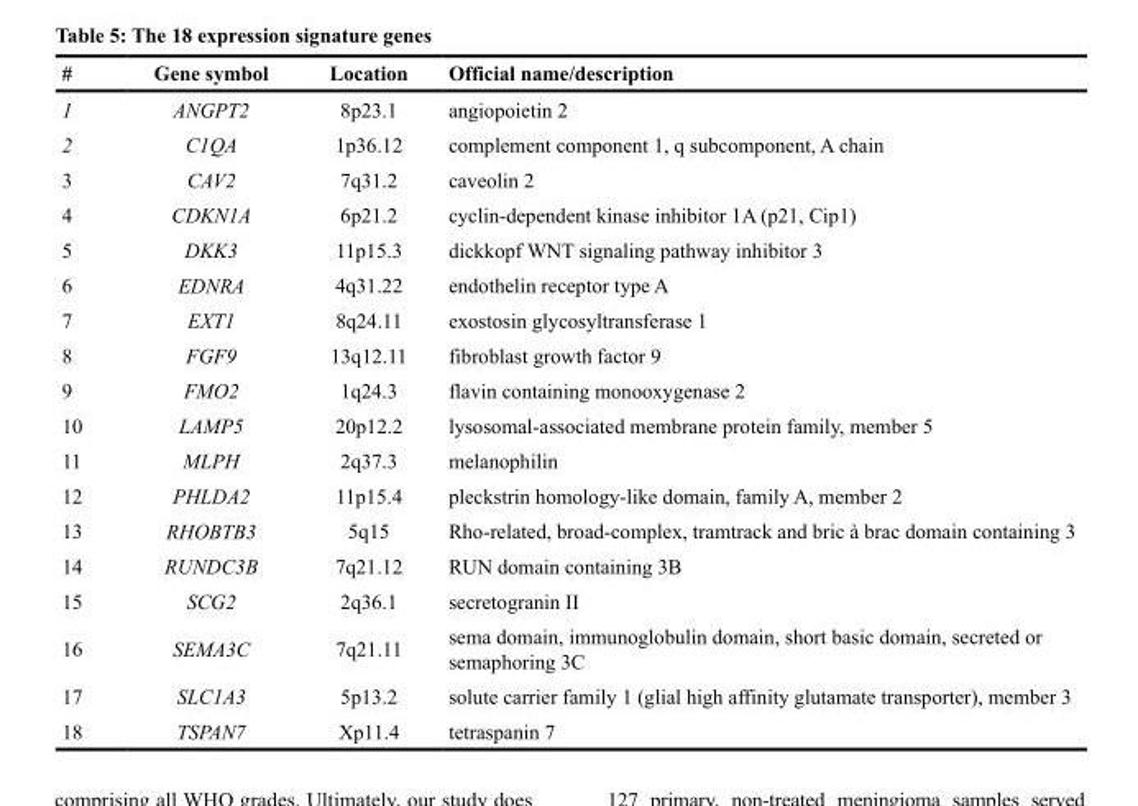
<table><thead><tr><td>#</td><td>Gene symbol</td><td>Location</td><td>Official name/description</td></tr></thead><tbody><tr><td>1</td><td>ANGPT2</td><td>8p23.1</td><td>angiopoietin 2</td></tr><tr><td>2</td><td>C1QA</td><td>1p36.12</td><td>complement component 1, q subcomponent, A chain</td></tr><tr><td>3</td><td>CAV2</td><td>7q31.2</td><td>caveolin 2</td></tr><tr><td>4</td><td>CDKN1A</td><td>6p21.2</td><td>cyclin-dependent kinase inhibitor 1A (p21, Cip1)</td></tr><tr><td>5</td><td>DKK3</td><td>11p15.3</td><td>dickkopf WNT signaling pathway inhibitor 3</td></tr><tr><td>6</td><td>EDNRA</td><td>4q31.22</td><td>endothelin receptor type A</td></tr><tr><td>7</td><td>EXT1</td><td>8q24.11</td><td>exostosin glycosyltransferase 1</td></tr><tr><td>8</td><td>FGF9</td><td>13q12.11</td><td>fibroblast growth factor 9</td></tr><tr><td>9</td><td>FMO2</td><td>1q24.3</td><td>flavin containing monooxygenase 2</td></tr><tr><td>10</td><td>LAMP5</td><td>20p12.2</td><td>lysosomal-associated membrane protein family, member 5</td></tr><tr><td>11</td><td>MLPH</td><td>2q37.3</td><td>melanophilin</td></tr><tr><td>12</td><td>PHLDA2</td><td>11p15.4</td><td>pleckstrin homology-like domain, family A, member 2</td></tr><tr><td>13</td><td>RHOBTB3</td><td>5q15</td><td>Rho-related, broad-complex, tramtrack and bric à brac domain containing 3</td></tr><tr><td>14</td><td>RUNDC3B</td><td>7q21.12</td><td>RUN domain containing 3B</td></tr><tr><td>15</td><td>SCG2</td><td>2q36.1</td><td>secretogranin II</td></tr><tr><td>16</td><td>SEMA3C</td><td>7q21.11</td><td>sema domain, immunoglobulin domain, short basic domain, secreted or semaphoring 3C</td></tr><tr><td>17</td><td>SLC1A3</td><td>5p13.2</td><td>solute carrier family 1 (glial high affinity glutamate transporter), member 3</td></tr><tr><td>18</td><td>TSPAN7</td><td>Xp11.4</td><td>tetraspanin 7</td></tr></tbody></table>